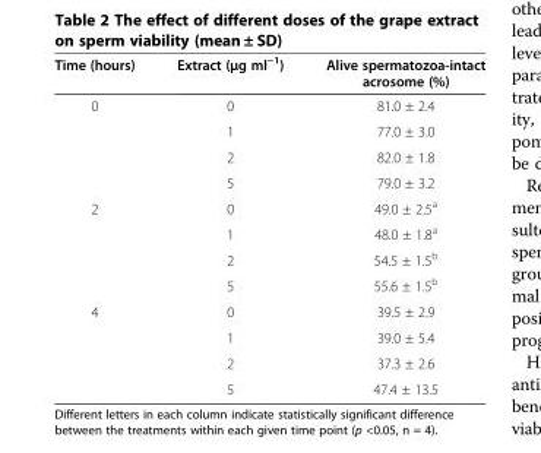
<table><thead><tr><td>Time (hours)</td><td>Extract (μg ml<sup>−1</sup>)</td><td>Alive spermatozoa-intact acrosome (%)</td></tr></thead><tbody><tr><td rowspan="4">0</td><td>0</td><td>81.0 ± 2.4</td></tr><tr><td>1</td><td>77.0 ± 3.0</td></tr><tr><td>2</td><td>82.0 ± 1.8</td></tr><tr><td>5</td><td>79.0 ± 3.2</td></tr><tr><td rowspan="4">2</td><td>0</td><td>49.0 ± 2.5<sup>a</sup></td></tr><tr><td>1</td><td>48.0 ± 1.8<sup>a</sup></td></tr><tr><td>2</td><td>54.5 ± 1.5<sup>b</sup></td></tr><tr><td>5</td><td>55.6 ± 1.5<sup>b</sup></td></tr><tr><td rowspan="4">4</td><td>0</td><td>39.5 ± 2.9</td></tr><tr><td>1</td><td>39.0 ± 5.4</td></tr><tr><td>2</td><td>37.3 ± 2.6</td></tr><tr><td>5</td><td>47.4 ± 13.5</td></tr></tbody></table>